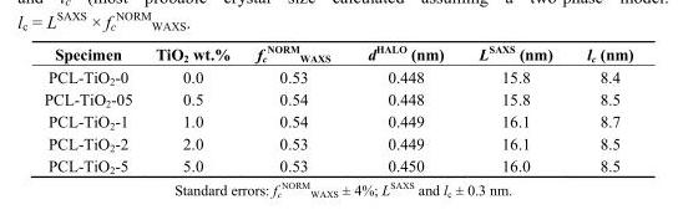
<table><thead><tr><td>Specimen</td><td>TiO<sub>2</sub> wt.%</td><td>f<sub>c</sub> <sup>NORM</sup> <sub>WAXS</sub></td><td>d<sup>HALO</sup> (nm)</td><td>L<sup>SAXS</sup> (nm)</td><td>l<sub>c</sub> (nm)</td></tr></thead><tbody><tr><td>PCL-TiO<sub>2</sub>-0</td><td>0.0</td><td>0.53</td><td>0.448</td><td>15.8</td><td>8.4</td></tr><tr><td>PCL-TiO<sub>2</sub>-05</td><td>0.5</td><td>0.54</td><td>0.448</td><td>15.8</td><td>8.5</td></tr><tr><td>PCL-TiO<sub>2</sub>-1</td><td>1.0</td><td>0.54</td><td>0.449</td><td>16.1</td><td>8.7</td></tr><tr><td>PCL-TiO<sub>2</sub>-2</td><td>2.0</td><td>0.53</td><td>0.449</td><td>16.1</td><td>8.5</td></tr><tr><td>PCL-TiO<sub>2</sub>-5</td><td>5.0</td><td>0.53</td><td>0.450</td><td>16.0</td><td>8.5</td></tr></tbody></table>